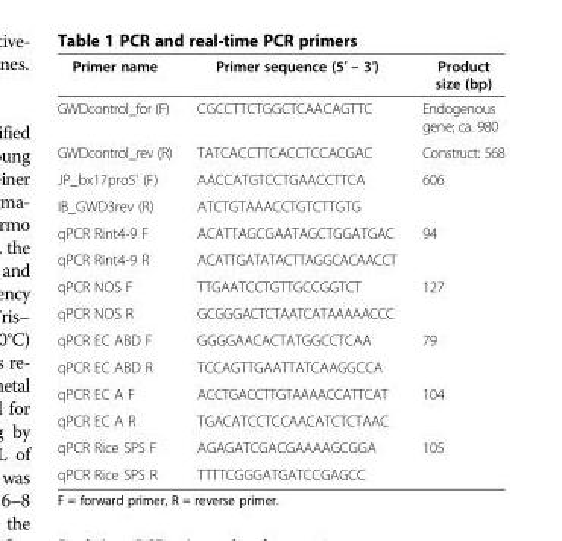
<table><thead><tr><td>Primer name</td><td>Primer sequence (5′ – 3′)</td><td>Product size (bp)</td></tr></thead><tbody><tr><td>GWDcontrol_for (F)</td><td>CGCCTTCTGGCTCAACAGTTC</td><td>Endogenous gene; ca. 980</td></tr><tr><td>GWDcontrol_rev (R)</td><td>TATCACCTTCACCTCCACGAC</td><td>Construct: 568</td></tr><tr><td>JP_bx17pro5&#x27; (F)</td><td>AACCATGTCCTGAACCTTCA</td><td>606</td></tr><tr><td>IB_GWD3rev (R)</td><td>ATCTGTAAACCTGTCTTGTG</td><td></td></tr><tr><td>qPCR Rint4-9 F</td><td>ACATTAGCGAATAGCTGGATGAC</td><td>94</td></tr><tr><td>qPCR Rint4-9 R</td><td>ACATTGATATACTTAGGCACAACCT</td><td></td></tr><tr><td>qPCR NOS F</td><td>TTGAATCCTGTTGCCGGTCT</td><td>127</td></tr><tr><td>qPCR NOS R</td><td>GCGGGACTCTAATCATAAAAACCC</td><td></td></tr><tr><td>qPCR EC ABD F</td><td>GGGGAACACTATGGCCTCAA</td><td>79</td></tr><tr><td>qPCR EC ABD R</td><td>TCCAGTTGAATTATCAAGGCCA</td><td></td></tr><tr><td>qPCR EC A F</td><td>ACCTGACCTTGTAAAACCATTCAT</td><td>104</td></tr><tr><td>qPCR EC A R</td><td>TGACATCCTCCAACATCTCTAAC</td><td></td></tr><tr><td>qPCR Rice SPS F</td><td>AGAGATCGACGAAAAGCGGA</td><td>105</td></tr><tr><td>qPCR Rice SPS R</td><td>TTTTCGGGATGATCCGAGCC</td><td></td></tr></tbody></table>